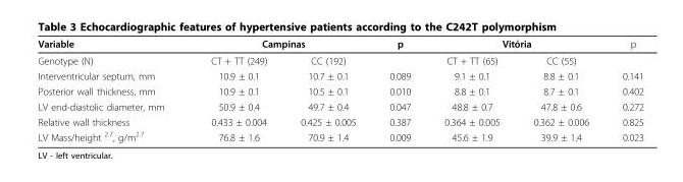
<table><thead><tr><td rowspan="2">Variable Genotype (N)</td><td colspan="2">Campinas</td><td rowspan="2">p</td><td colspan="2">Vitória</td><td rowspan="2">p</td></tr><tr><td>CT + TT (249)</td><td>CC (192)</td><td>CT + TT (65)</td><td>CC (55)</td></tr></thead><tbody><tr><td>Interventricular septum, mm</td><td>10.9 ± 0.1</td><td>10.7 ± 0.1</td><td>0.089</td><td>9.1 ± 0.1</td><td>8.8 ± 0.1</td><td>0.141</td></tr><tr><td>Posterior wall thickness, mm</td><td>10.9 ± 0.1</td><td>10.5 ± 0.1</td><td>0.010</td><td>8.8 ± 0.1</td><td>8.7 ± 0.1</td><td>0.402</td></tr><tr><td>LV end-diastolic diameter, mm</td><td>50.9 ± 0.4</td><td>49.7 ± 0.4</td><td>0.047</td><td>48.8 ± 0.7</td><td>47.8 ± 0.6</td><td>0.272</td></tr><tr><td>Relative wall thickness</td><td>0.433 ± 0.004</td><td>0.425 ± 0.005</td><td>0.387</td><td>0.364 ± 0.005</td><td>0.362 ± 0.006</td><td>0.825</td></tr><tr><td>LV Mass/height <sup>2.7</sup>, g/m<sup>2.7</sup></td><td>76.8 ± 1.6</td><td>70.9 ± 1.4</td><td>0.009</td><td>45.6 ± 1.9</td><td>39.9 ± 1.4</td><td>0.023</td></tr></tbody></table>